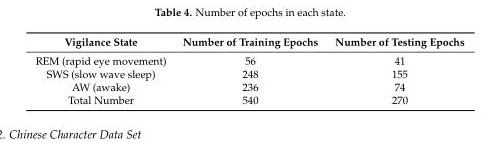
<table><thead><tr><td>Vigilance State</td><td>Number of Training Epochs</td><td>Number of Testing Epochs</td></tr></thead><tbody><tr><td>REM (rapid eye movement)</td><td>56</td><td>41</td></tr><tr><td>SWS (slow wave sleep)</td><td>248</td><td>155</td></tr><tr><td>AW (awake)</td><td>236</td><td>74</td></tr><tr><td>Total Number</td><td>540</td><td>270</td></tr></tbody></table>